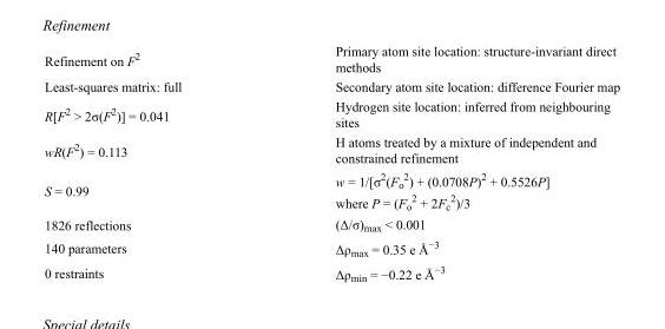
<table><tbody><tr><td>Refinement on F<sup>2</sup></td><td>Primary atom site location: structure-invariant direct methods</td></tr><tr><td>Least-squares matrix: full</td><td>Secondary atom site location: difference Fourier map</td></tr><tr><td>R[F<sup>2</sup> &gt; 2σ(F<sup>2</sup>)] = 0.041</td><td>Hydrogen site location: inferred from neighbouring sites</td></tr><tr><td>wR(F<sup>2</sup>) = 0.113</td><td>H atoms treated by a mixture of independent and constrained refinement</td></tr><tr><td>S = 0.99</td><td>w = 1/[σ<sup>2</sup>(F<sub>o</sub> <sup>2</sup>) + (0.0708P)<sup>2</sup> + 0.5526P] where P = (F<sub>o</sub> <sup>2</sup> + 2F<sub>c</sub> <sup>2</sup>)/3</td></tr><tr><td>1826 reflections</td><td>(Δ/σ)<sub>max</sub> &lt; 0.001</td></tr><tr><td>140 parameters</td><td>Δρ<sub>max</sub> = 0.35 e Å<sup>−3</sup></td></tr><tr><td>0 restraints</td><td>Δρ<sub>min</sub> = −0.22 e Å<sup>−3</sup></td></tr></tbody></table>